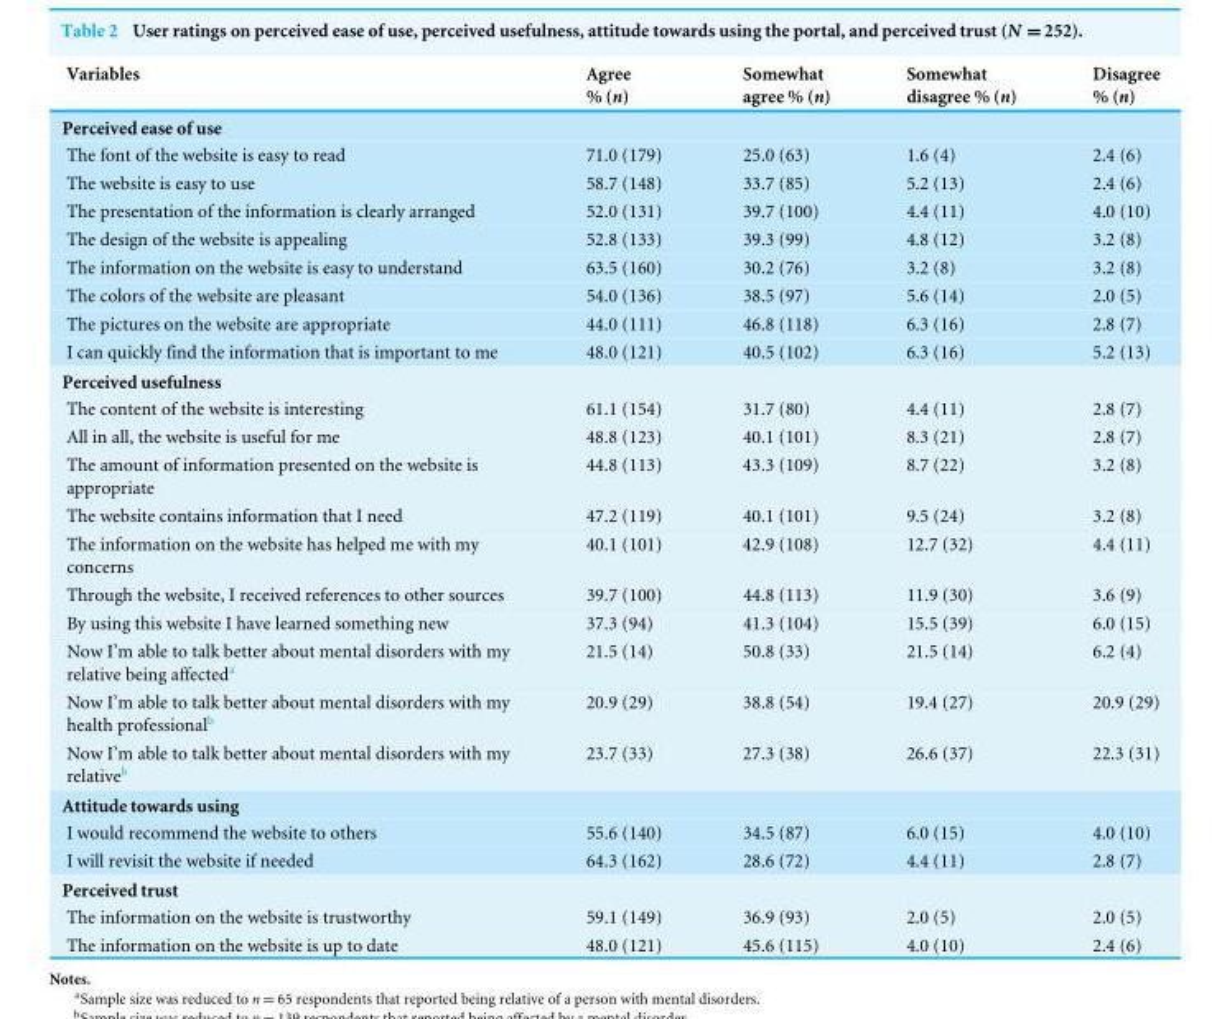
<table><thead><tr><td>Variables</td><td>Agree % (n)</td><td>Somewhat agree % (n)</td><td>Somewhat disagree % (n)</td><td>Disagree % (n)</td></tr></thead><tbody><tr><td colspan="5">Perceived ease of use</td></tr><tr><td>The font of the website is easy to read</td><td>71.0 (179)</td><td>25.0 (63)</td><td>1.6 (4)</td><td>2.4 (6)</td></tr><tr><td>The website is easy to use</td><td>58.7 (148)</td><td>33.7 (85)</td><td>5.2 (13)</td><td>2.4 (6)</td></tr><tr><td>The presentation of the information is clearly arranged</td><td>52.0 (131)</td><td>39.7 (100)</td><td>4.4 (11)</td><td>4.0 (10)</td></tr><tr><td>The design of the website is appealing</td><td>52.8 (133)</td><td>39.3 (99)</td><td>4.8 (12)</td><td>3.2 (8)</td></tr><tr><td>The information on the website is easy to understand</td><td>63.5 (160)</td><td>30.2 (76)</td><td>3.2 (8)</td><td>3.2 (8)</td></tr><tr><td>The colors of the website are pleasant</td><td>54.0 (136)</td><td>38.5 (97)</td><td>5.6 (14)</td><td>2.0 (5)</td></tr><tr><td>The pictures on the website are appropriate</td><td>44.0 (111)</td><td>46.8 (118)</td><td>6.3 (16)</td><td>2.8 (7)</td></tr><tr><td>I can quickly find the information that is important to me</td><td>48.0 (121)</td><td>40.5 (102)</td><td>6.3 (16)</td><td>5.2 (13)</td></tr><tr><td colspan="5">Perceived usefulness</td></tr><tr><td>The content of the website is interesting</td><td>61.1 (154)</td><td>31.7 (80)</td><td>4.4 (11)</td><td>2.8 (7)</td></tr><tr><td>All in all, the website is useful for me</td><td>48.8 (123)</td><td>40.1 (101)</td><td>8.3 (21)</td><td>2.8 (7)</td></tr><tr><td>The amount of information presented on the website is appropriate</td><td>44.8 (113)</td><td>43.3 (109)</td><td>8.7 (22)</td><td>3.2 (8)</td></tr><tr><td>The website contains information that I need</td><td>47.2 (119)</td><td>40.1 (101)</td><td>9.5 (24)</td><td>3.2 (8)</td></tr><tr><td>The information on the website has helped me with my concerns</td><td>40.1 (101)</td><td>42.9 (108)</td><td>12.7 (32)</td><td>4.4 (11)</td></tr><tr><td>Through the website, I received references to other sources</td><td>39.7 (100)</td><td>44.8 (113)</td><td>11.9 (30)</td><td>3.6 (9)</td></tr><tr><td>By using this website I have learned something new</td><td>37.3 (94)</td><td>41.3 (104)</td><td>15.5 (39)</td><td>6.0 (15)</td></tr><tr><td>Now I’m able to talk better about mental disorders with my relative being affected<sup>a</sup></td><td>21.5 (14)</td><td>50.8 (33)</td><td>21.5 (14)</td><td>6.2 (4)</td></tr><tr><td>Now I’m able to talk better about mental disorders with my health professional<sup>b</sup></td><td>20.9 (29)</td><td>38.8 (54)</td><td>19.4 (27)</td><td>20.9 (29)</td></tr><tr><td>Now I’m able to talk better about mental disorders with my relative<sup>b</sup></td><td>23.7 (33)</td><td>27.3 (38)</td><td>26.6 (37)</td><td>22.3 (31)</td></tr><tr><td colspan="5">Attitude towards using</td></tr><tr><td>I would recommend the website to others</td><td>55.6 (140)</td><td>34.5 (87)</td><td>6.0 (15)</td><td>4.0 (10)</td></tr><tr><td>I will revisit the website if needed</td><td>64.3 (162)</td><td>28.6 (72)</td><td>4.4 (11)</td><td>2.8 (7)</td></tr><tr><td colspan="5">Perceived trust</td></tr><tr><td>The information on the website is trustworthy</td><td>59.1 (149)</td><td>36.9 (93)</td><td>2.0 (5)</td><td>2.0 (5)</td></tr><tr><td>The information on the website is up to date</td><td>48.0 (121)</td><td>45.6 (115)</td><td>4.0 (10)</td><td>2.4 (6)</td></tr></tbody></table>